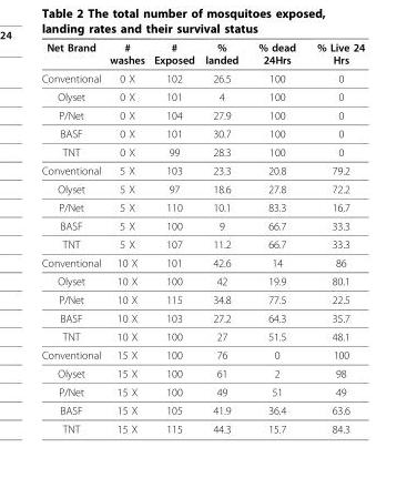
<table><thead><tr><td>Net Brand</td><td># washes</td><td># Exposed</td><td>% landed</td><td>% dead 24Hrs</td><td>% Live 24 Hrs</td></tr></thead><tbody><tr><td>Conventional</td><td>0 X</td><td>102</td><td>26.5</td><td>100</td><td>0</td></tr><tr><td>Olyset</td><td>0 X</td><td>101</td><td>4</td><td>100</td><td>0</td></tr><tr><td>P/Net</td><td>0 X</td><td>104</td><td>27.9</td><td>100</td><td>0</td></tr><tr><td>BASF</td><td>0 X</td><td>101</td><td>30.7</td><td>100</td><td>0</td></tr><tr><td>TNT</td><td>0 X</td><td>99</td><td>28.3</td><td>100</td><td>0</td></tr><tr><td>Conventional</td><td>5 X</td><td>103</td><td>23.3</td><td>20.8</td><td>79.2</td></tr><tr><td>Olyset</td><td>5 X</td><td>97</td><td>18.6</td><td>27.8</td><td>72.2</td></tr><tr><td>P/Net</td><td>5 X</td><td>110</td><td>10.1</td><td>83.3</td><td>16.7</td></tr><tr><td>BASF</td><td>5 X</td><td>100</td><td>9</td><td>66.7</td><td>33.3</td></tr><tr><td>TNT</td><td>5 X</td><td>107</td><td>11.2</td><td>66.7</td><td>33.3</td></tr><tr><td>Conventional</td><td>10 X</td><td>101</td><td>42.6</td><td>14</td><td>86</td></tr><tr><td>Olyset</td><td>10 X</td><td>100</td><td>42</td><td>19.9</td><td>80.1</td></tr><tr><td>P/Net</td><td>10 X</td><td>115</td><td>34.8</td><td>77.5</td><td>22.5</td></tr><tr><td>BASF</td><td>10 X</td><td>103</td><td>27.2</td><td>64.3</td><td>35.7</td></tr><tr><td>TNT</td><td>10 X</td><td>100</td><td>27</td><td>51.5</td><td>48.1</td></tr><tr><td>Conventional</td><td>15 X</td><td>100</td><td>76</td><td>0</td><td>100</td></tr><tr><td>Olyset</td><td>15 X</td><td>100</td><td>61</td><td>2</td><td>98</td></tr><tr><td>P/Net</td><td>15 X</td><td>100</td><td>49</td><td>51</td><td>49</td></tr><tr><td>BASF</td><td>15 X</td><td>105</td><td>41.9</td><td>36.4</td><td>63.6</td></tr><tr><td>TNT</td><td>15 X</td><td>115</td><td>44.3</td><td>15.7</td><td>84.3</td></tr></tbody></table>